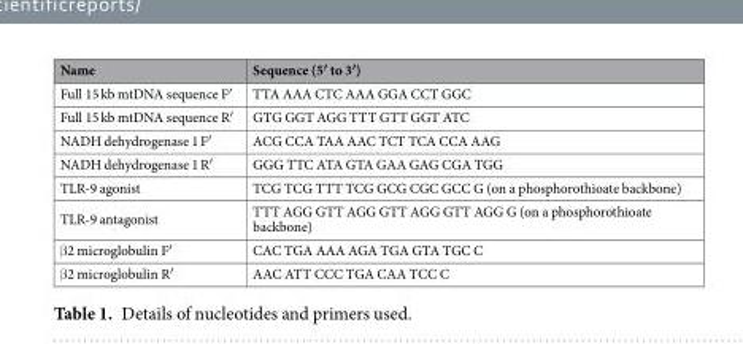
<table><thead><tr><td>Name</td><td>Sequence (5′ to 3′)</td></tr></thead><tbody><tr><td>Full 15 kb mtDNA sequence F′</td><td>TTA AAA CTC AAA GGA CCT GGC</td></tr><tr><td>Full 15 kb mtDNA sequence R′</td><td>GTG GGT AGG TTT GTT GGT ATC</td></tr><tr><td>NADH dehydrogenase 1 F′</td><td>ACG CCA TAA AAC TCT TCA CCA AAG</td></tr><tr><td>NADH dehydrogenase 1 R′</td><td>GGG TTC ATA GTA GAA GAG CGA TGG</td></tr><tr><td>TLR-9 agonist</td><td>TCG TCG TTT TCG GCG CGC GCC G (on a phosphorothioate backbone)</td></tr><tr><td>TLR-9 antagonist</td><td>TTT AGG GTT AGG GTT AGG GTT AGG G (on a phosphorothioate backbone)</td></tr><tr><td>β2 microglobulin F′</td><td>CAC TGA AAA AGA TGA GTA TGC C</td></tr><tr><td>β2 microglobulin R′</td><td>AAC ATT CCC TGA CAA TCC C</td></tr></tbody></table>